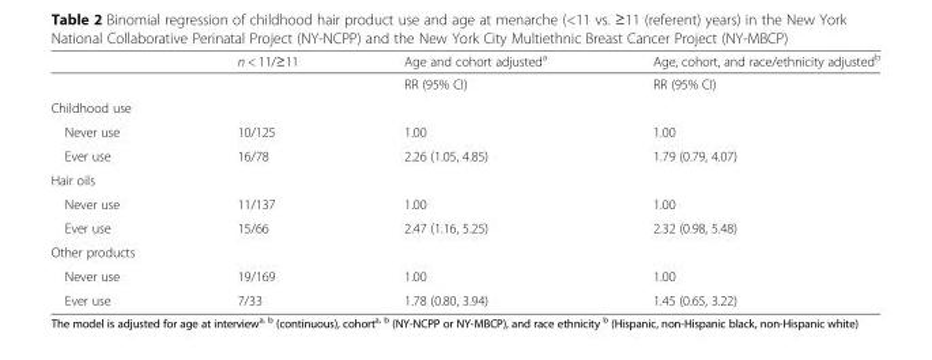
<table><thead><tr><td></td><td>n &lt; 11/≥11</td><td>Age and cohort adjusted<sup>a</sup></td><td>Age, cohort, and race/ethnicity adjusted<sup>b</sup></td></tr></thead><tbody><tr><td></td><td></td><td>RR (95% CI)</td><td>RR (95% CI)</td></tr><tr><td colspan="4">Childhood use</td></tr><tr><td>Never use</td><td>10/125</td><td>1.00</td><td>1.00</td></tr><tr><td>Ever use</td><td>16/78</td><td>2.26 (1.05, 4.85)</td><td>1.79 (0.79, 4.07)</td></tr><tr><td colspan="4">Hair oils</td></tr><tr><td>Never use</td><td>11/137</td><td>1.00</td><td>1.00</td></tr><tr><td>Ever use</td><td>15/66</td><td>2.47 (1.16, 5.25)</td><td>2.32 (0.98, 5.48)</td></tr><tr><td colspan="4">Other products</td></tr><tr><td>Never use</td><td>19/169</td><td>1.00</td><td>1.00</td></tr><tr><td>Ever use</td><td>7/33</td><td>1.78 (0.80, 3.94)</td><td>1.45 (0.65, 3.22)</td></tr></tbody></table>